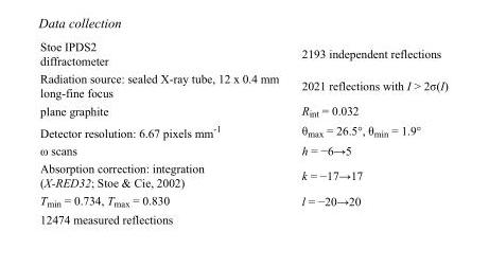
<table><tbody><tr><td>Stoe IPDS2 diffractometer</td><td>2193 independent reflections</td></tr><tr><td>Radiation source: sealed X-ray tube, 12 x 0.4 mm long-fine focus</td><td>2021 reflections with I &gt; 2σ(I)</td></tr><tr><td>plane graphite</td><td>R<sub>int</sub> = 0.032</td></tr><tr><td>Detector resolution: 6.67 pixels mm<sup>-1</sup></td><td>θ<sub>max</sub> = 26.5°, θ<sub>min</sub> = 1.9°</td></tr><tr><td>ω scans</td><td>h = −6→5</td></tr><tr><td>Absorption correction: integration (X-RED32; Stoe &amp; Cie, 2002)</td><td>k = −17→17</td></tr><tr><td>T<sub>min</sub> = 0.734, T<sub>max</sub> = 0.830</td><td>l = −20→20</td></tr><tr><td>12474 measured reflections</td><td></td></tr></tbody></table>